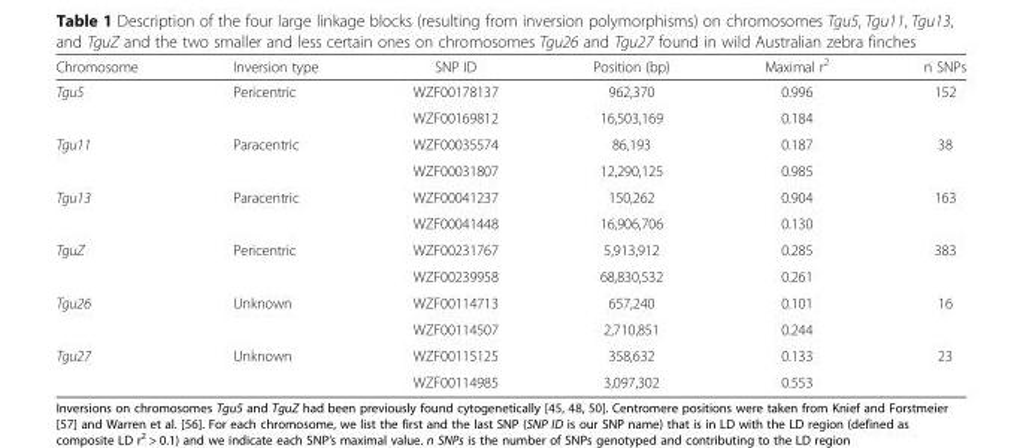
<table><thead><tr><td>Chromosome</td><td>Inversion type</td><td>SNP ID</td><td>Position (bp)</td><td>Maximal r<sup>2</sup></td><td>n SNPs</td></tr></thead><tbody><tr><td rowspan="2">Tgu5</td><td rowspan="2">Pericentric</td><td>WZF00178137</td><td>962,370</td><td>0.996</td><td rowspan="2">152</td></tr><tr><td>WZF00169812</td><td>16,503,169</td><td>0.184</td></tr><tr><td rowspan="2">Tgu11</td><td rowspan="2">Paracentric</td><td>WZF00035574</td><td>86,193</td><td>0.187</td><td rowspan="2">38</td></tr><tr><td>WZF00031807</td><td>12,290,125</td><td>0.985</td></tr><tr><td rowspan="2">Tgu13</td><td rowspan="2">Paracentric</td><td>WZF00041237</td><td>150,262</td><td>0.904</td><td rowspan="2">163</td></tr><tr><td>WZF00041448</td><td>16,906,706</td><td>0.130</td></tr><tr><td rowspan="2">TguZ</td><td rowspan="2">Pericentric</td><td>WZF00231767</td><td>5,913,912</td><td>0.285</td><td rowspan="2">383</td></tr><tr><td>WZF00239958</td><td>68,830,532</td><td>0.261</td></tr><tr><td rowspan="2">Tgu26</td><td rowspan="2">Unknown</td><td>WZF00114713</td><td>657,240</td><td>0.101</td><td rowspan="2">16</td></tr><tr><td>WZF00114507</td><td>2,710,851</td><td>0.244</td></tr><tr><td rowspan="2">Tgu27</td><td rowspan="2">Unknown</td><td>WZF00115125</td><td>358,632</td><td>0.133</td><td rowspan="2">23</td></tr><tr><td>WZF00114985</td><td>3,097,302</td><td>0.553</td></tr></tbody></table>